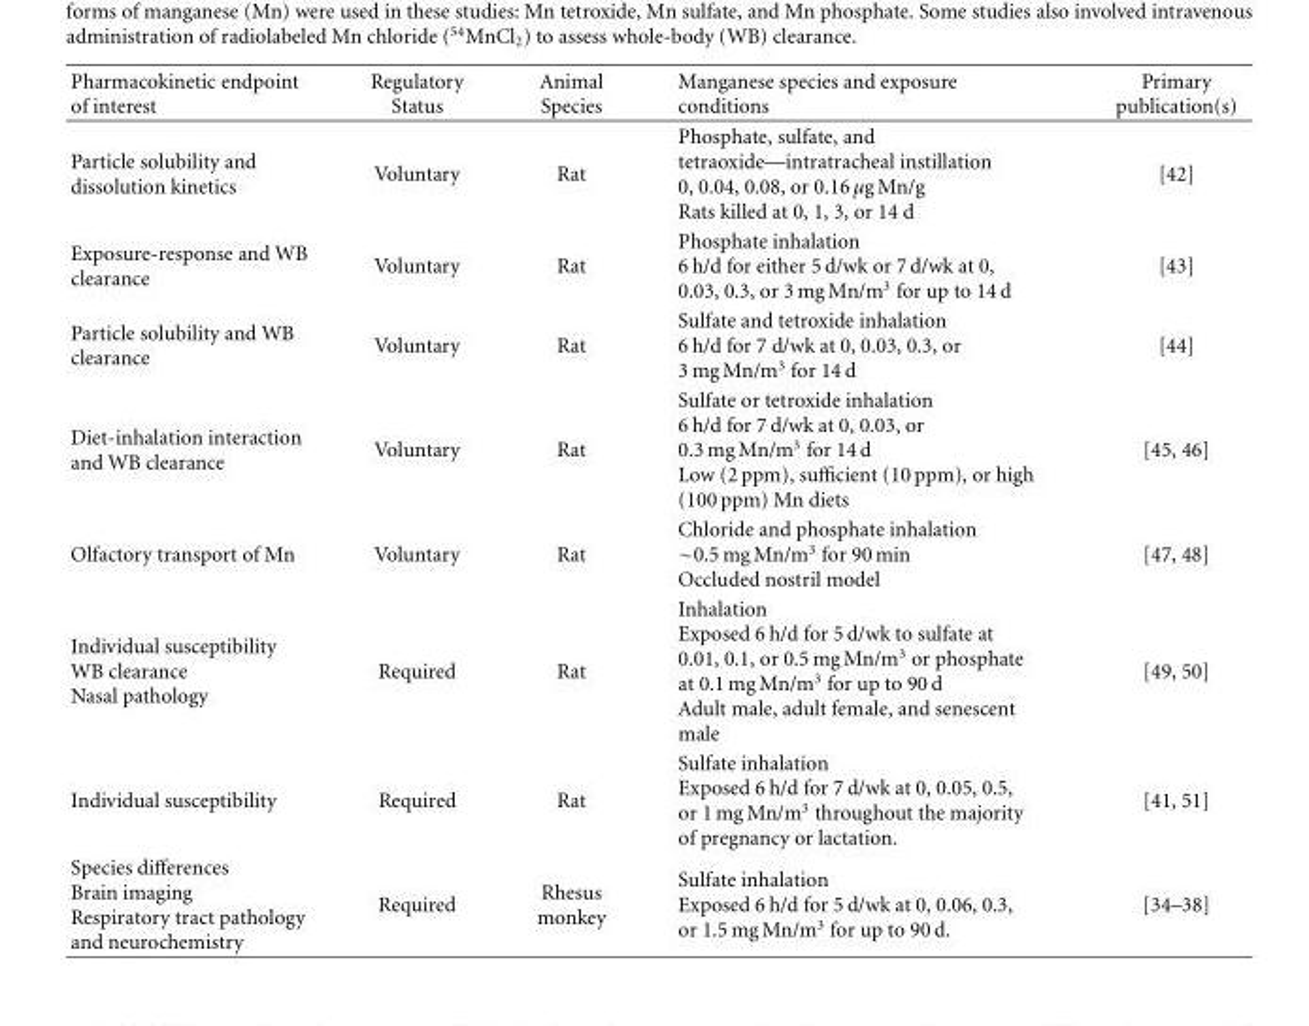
<table><thead><tr><td>Pharmacokinetic endpoint of interest</td><td>Regulatory Status</td><td>Animal Species</td><td>Manganese species and exposure conditions</td><td>Primary publication(s)</td></tr></thead><tbody><tr><td>Particle solubility and dissolution kinetics</td><td>Voluntary</td><td>Rat</td><td>Phosphate, sulfate, and tetraoxide—intratracheal instillation 0, 0.04, 0.08, or 0.16 µg Mn/g Rats killed at 0, 1, 3, or 14 d</td><td>[42]</td></tr><tr><td>Exposure-response and WB clearance</td><td>Voluntary</td><td>Rat</td><td>Phosphate inhalation 6 h/d for either 5 d/wk or 7 d/wk at 0, 0.03, 0.3, or 3 mg Mn/m<sup>3</sup> for up to 14 d</td><td>[43]</td></tr><tr><td>Particle solubility and WB clearance</td><td>Voluntary</td><td>Rat</td><td>Sulfate and tetroxide inhalation 6 h/d for 7 d/wk at 0, 0.03, 0.3, or 3 mg Mn/m<sup>3</sup> for 14 d</td><td>[44]</td></tr><tr><td>Diet-inhalation interaction and WB clearance</td><td>Voluntary</td><td>Rat</td><td>Sulfate or tetroxide inhalation 6 h/d for 7 d/wk at 0, 0.03, or 0.3 mg Mn/m<sup>3</sup> for 14 d Low (2 ppm), sufficient (10 ppm), or high (100 ppm) Mn diets</td><td>[45, 46]</td></tr><tr><td>Olfactory transport of Mn</td><td>Voluntary</td><td>Rat</td><td>Chloride and phosphate inhalation ∼0.5 mg Mn/m3 for 90 min Occluded nostril model</td><td>[47, 48]</td></tr><tr><td>Individual susceptibility WB clearance Nasal pathology</td><td>Required</td><td>Rat</td><td>Inhalation Exposed 6 h/d for 5 d/wk to sulfate at 0.01, 0.1, or 0.5 mg Mn/m<sup>3</sup> or phosphate at 0.1 mg Mn/m<sup>3</sup> for up to 90 d Adult male, adult female, and senescent male</td><td>[49, 50]</td></tr><tr><td>Individual susceptibility</td><td>Required</td><td>Rat</td><td>Sulfate inhalation Exposed 6 h/d for 7 d/wk at 0, 0.05, 0.5, or 1 mg Mn/m<sup>3</sup> throughout the majority of pregnancy or lactation.</td><td>[41, 51]</td></tr><tr><td>Species differences Brain imaging Respiratory tract pathology and neurochemistry</td><td>Required</td><td>Rhesus monkey</td><td>Sulfate inhalation Exposed 6 h/d for 5 d/wk at 0, 0.06, 0.3, or 1.5 mg Mn/m<sup>3</sup> for up to 90 d.</td><td>[34–38]</td></tr></tbody></table>